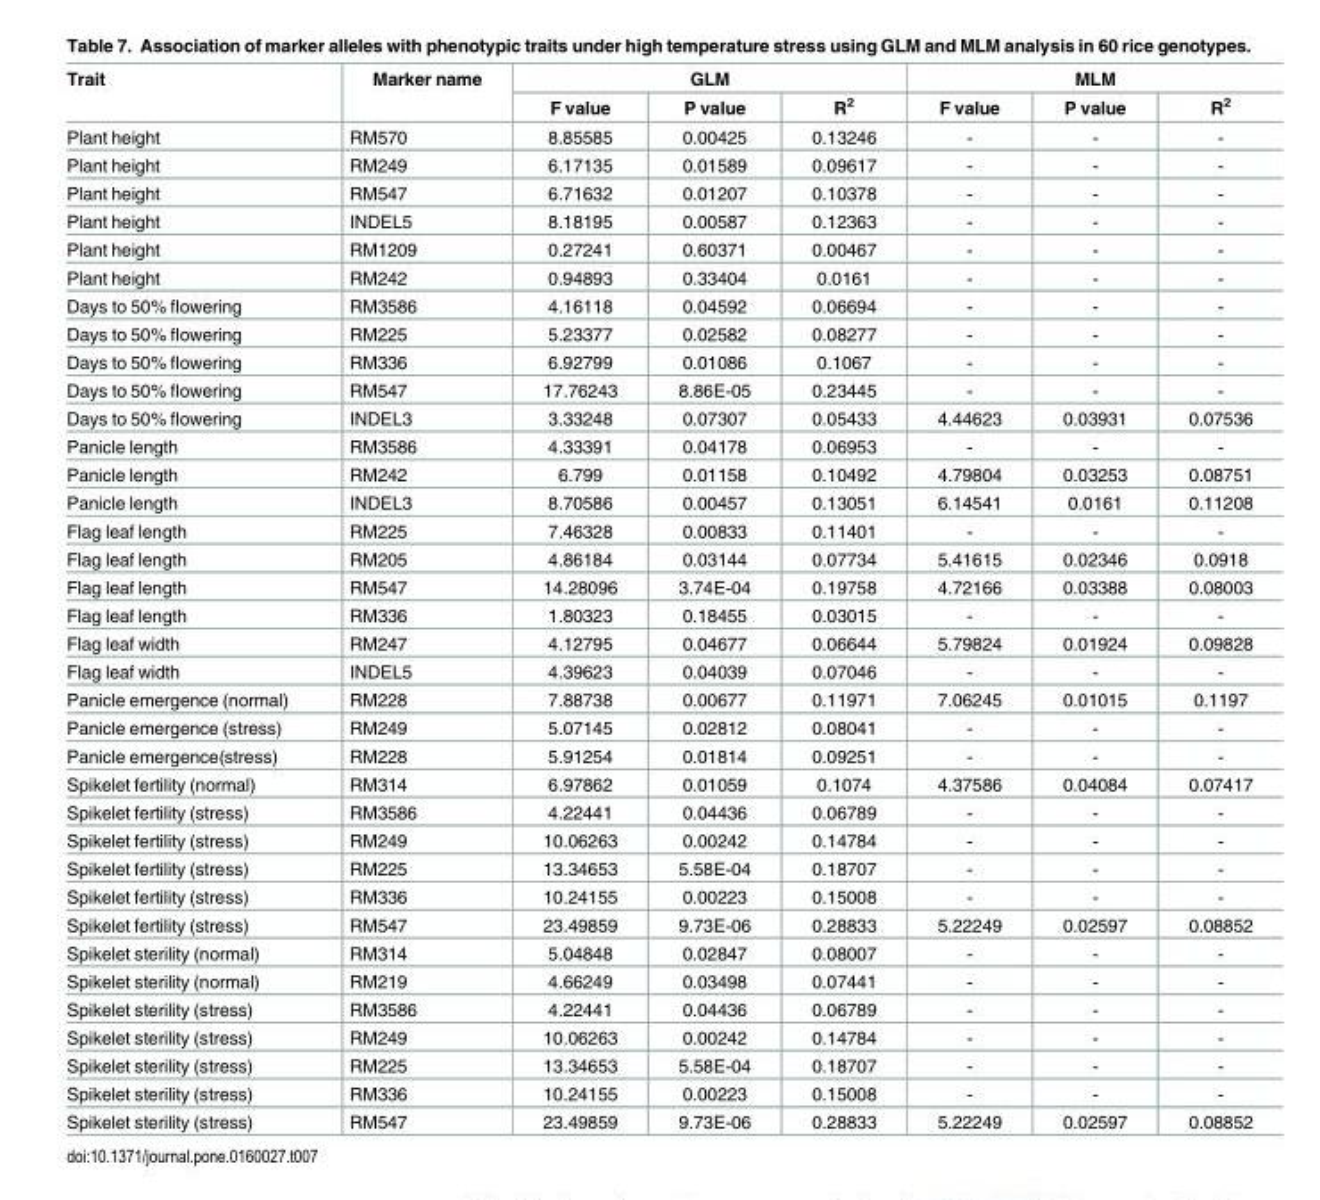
<table><thead><tr><td rowspan="2">Trait</td><td rowspan="2">Marker name</td><td colspan="3">GLM</td><td colspan="3">MLM</td></tr><tr><td>F value</td><td>P value</td><td>R<sup>2</sup></td><td>F value</td><td>P value</td><td>R<sup>2</sup></td></tr></thead><tbody><tr><td>Plant height</td><td>RM570</td><td>8.85585</td><td>0.00425</td><td>0.13246</td><td>-</td><td>-</td><td>-</td></tr><tr><td>Plant height</td><td>RM249</td><td>6.17135</td><td>0.01589</td><td>0.09617</td><td>-</td><td>-</td><td>-</td></tr><tr><td>Plant height</td><td>RM547</td><td>6.71632</td><td>0.01207</td><td>0.10378</td><td>-</td><td>-</td><td>-</td></tr><tr><td>Plant height</td><td>INDEL5</td><td>8.18195</td><td>0.00587</td><td>0.12363</td><td>-</td><td>-</td><td>-</td></tr><tr><td>Plant height</td><td>RM1209</td><td>0.27241</td><td>0.60371</td><td>0.00467</td><td>-</td><td>-</td><td>-</td></tr><tr><td>Plant height</td><td>RM242</td><td>0.94893</td><td>0.33404</td><td>0.0161</td><td>-</td><td>-</td><td>-</td></tr><tr><td>Days to 50% flowering</td><td>RM3586</td><td>4.16118</td><td>0.04592</td><td>0.06694</td><td>-</td><td>-</td><td>-</td></tr><tr><td>Days to 50% flowering</td><td>RM225</td><td>5.23377</td><td>0.02582</td><td>0.08277</td><td>-</td><td>-</td><td>-</td></tr><tr><td>Days to 50% flowering</td><td>RM336</td><td>6.92799</td><td>0.01086</td><td>0.1067</td><td>-</td><td>-</td><td>-</td></tr><tr><td>Days to 50% flowering</td><td>RM547</td><td>17.76243</td><td>8.86E-05</td><td>0.23445</td><td>-</td><td>-</td><td>-</td></tr><tr><td>Days to 50% flowering</td><td>INDEL3</td><td>3.33248</td><td>0.07307</td><td>0.05433</td><td>4.44623</td><td>0.03931</td><td>0.07536</td></tr><tr><td>Panicle length</td><td>RM3586</td><td>4.33391</td><td>0.04178</td><td>0.06953</td><td>-</td><td>-</td><td>-</td></tr><tr><td>Panicle length</td><td>RM242</td><td>6.799</td><td>0.01158</td><td>0.10492</td><td>4.79804</td><td>0.03253</td><td>0.08751</td></tr><tr><td>Panicle length</td><td>INDEL3</td><td>8.70586</td><td>0.00457</td><td>0.13051</td><td>6.14541</td><td>0.0161</td><td>0.11208</td></tr><tr><td>Flag leaf length</td><td>RM225</td><td>7.46328</td><td>0.00833</td><td>0.11401</td><td>-</td><td>-</td><td>-</td></tr><tr><td>Flag leaf length</td><td>RM205</td><td>4.86184</td><td>0.03144</td><td>0.07734</td><td>5.41615</td><td>0.02346</td><td>0.0918</td></tr><tr><td>Flag leaf length</td><td>RM547</td><td>14.28096</td><td>3.74E-04</td><td>0.19758</td><td>4.72166</td><td>0.03388</td><td>0.08003</td></tr><tr><td>Flag leaf length</td><td>RM336</td><td>1.80323</td><td>0.18455</td><td>0.03015</td><td>-</td><td>-</td><td>-</td></tr><tr><td>Flag leaf width</td><td>RM247</td><td>4.12795</td><td>0.04677</td><td>0.06644</td><td>5.79824</td><td>0.01924</td><td>0.09828</td></tr><tr><td>Flag leaf width</td><td>INDEL5</td><td>4.39623</td><td>0.04039</td><td>0.07046</td><td>-</td><td>-</td><td>-</td></tr><tr><td>Panicle emergence (normal)</td><td>RM228</td><td>7.88738</td><td>0.00677</td><td>0.11971</td><td>7.06245</td><td>0.01015</td><td>0.1197</td></tr><tr><td>Panicle emergence (stress)</td><td>RM249</td><td>5.07145</td><td>0.02812</td><td>0.08041</td><td>-</td><td>-</td><td>-</td></tr><tr><td>Panicle emergence(stress)</td><td>RM228</td><td>5.91254</td><td>0.01814</td><td>0.09251</td><td>-</td><td>-</td><td>-</td></tr><tr><td>Spikelet fertility (normal)</td><td>RM314</td><td>6.97862</td><td>0.01059</td><td>0.1074</td><td>4.37586</td><td>0.04084</td><td>0.07417</td></tr><tr><td>Spikelet fertility (stress)</td><td>RM3586</td><td>4.22441</td><td>0.04436</td><td>0.06789</td><td>-</td><td>-</td><td>-</td></tr><tr><td>Spikelet fertility (stress)</td><td>RM249</td><td>10.06263</td><td>0.00242</td><td>0.14784</td><td>-</td><td>-</td><td>-</td></tr><tr><td>Spikelet fertility (stress)</td><td>RM225</td><td>13.34653</td><td>5.58E-04</td><td>0.18707</td><td>-</td><td>-</td><td>-</td></tr><tr><td>Spikelet fertility (stress)</td><td>RM336</td><td>10.24155</td><td>0.00223</td><td>0.15008</td><td>-</td><td>-</td><td>-</td></tr><tr><td>Spikelet fertility (stress)</td><td>RM547</td><td>23.49859</td><td>9.73E-06</td><td>0.28833</td><td>5.22249</td><td>0.02597</td><td>0.08852</td></tr><tr><td>Spikelet sterility (normal)</td><td>RM314</td><td>5.04848</td><td>0.02847</td><td>0.08007</td><td>-</td><td>-</td><td>-</td></tr><tr><td>Spikelet sterility (normal)</td><td>RM219</td><td>4.66249</td><td>0.03498</td><td>0.07441</td><td>-</td><td>-</td><td>-</td></tr><tr><td>Spikelet sterility (stress)</td><td>RM3586</td><td>4.22441</td><td>0.04436</td><td>0.06789</td><td>-</td><td>-</td><td>-</td></tr><tr><td>Spikelet sterility (stress)</td><td>RM249</td><td>10.06263</td><td>0.00242</td><td>0.14784</td><td>-</td><td>-</td><td>-</td></tr><tr><td>Spikelet sterility (stress)</td><td>RM225</td><td>13.34653</td><td>5.58E-04</td><td>0.18707</td><td>-</td><td>-</td><td>-</td></tr><tr><td>Spikelet sterility (stress)</td><td>RM336</td><td>10.24155</td><td>0.00223</td><td>0.15008</td><td>-</td><td>-</td><td>-</td></tr><tr><td>Spikelet sterility (stress)</td><td>RM547</td><td>23.49859</td><td>9.73E-06</td><td>0.28833</td><td>5.22249</td><td>0.02597</td><td>0.08852</td></tr></tbody></table>